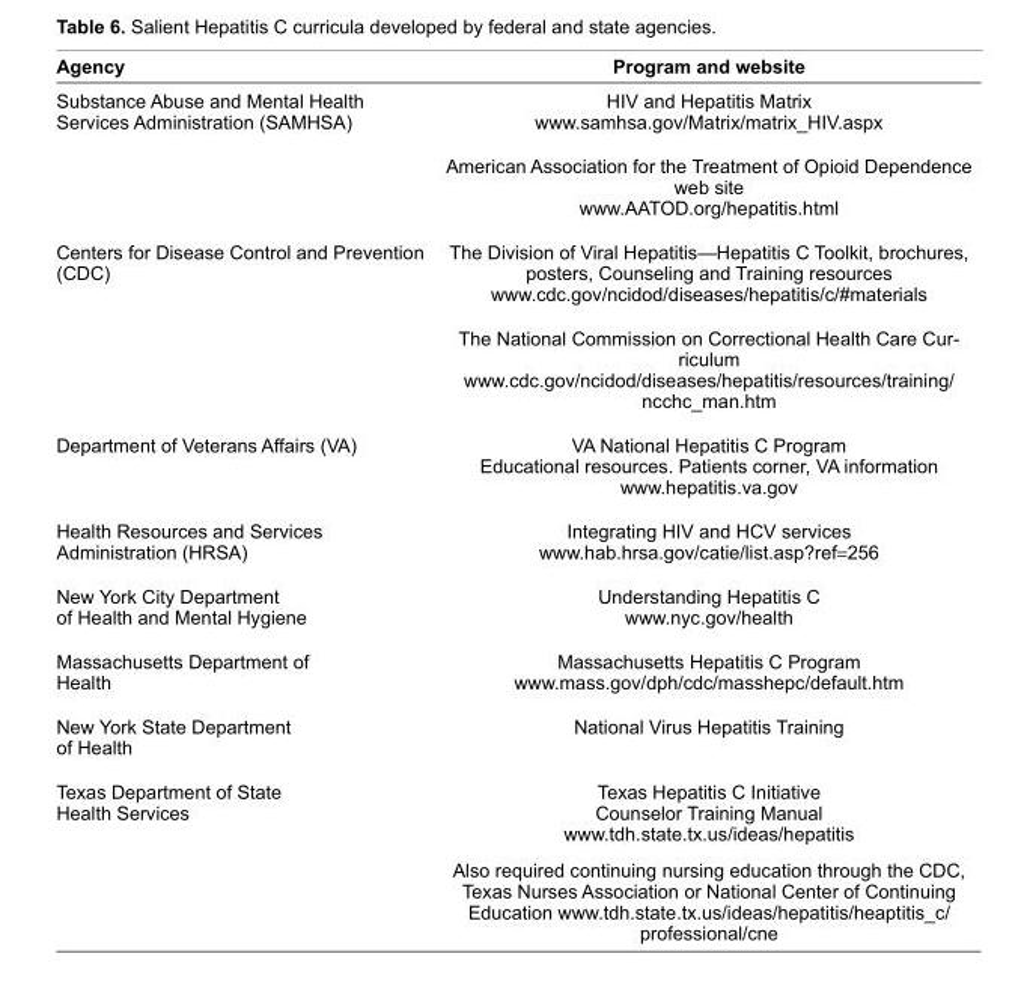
<table><thead><tr><td>Agency</td><td>Program and website</td></tr></thead><tbody><tr><td>Substance Abuse and Mental Health Services Administration (SAMHSA)</td><td>HIV and Hepatitis Matrix www.samhsa.gov/Matrix/matrix_HIV.aspx American Association for the Treatment of Opioid Dependence web site www.AATOD.org/hepatitis.html</td></tr><tr><td>Centers for Disease Control and Prevention (CDC)</td><td>The Division of Viral Hepatitis—Hepatitis C Toolkit, brochures, posters, Counseling and Training resources www.cdc.gov/ncidod/diseases/hepatitis/c/#materials The National Commission on Correctional Health Care Cur- riculum www.cdc.gov/ncidod/diseases/hepatitis/resources/training/ ncchc_man.htm</td></tr><tr><td>Department of Veterans Affairs (VA)</td><td>VA National Hepatitis C Program Educational resources. Patients corner, VA information www.hepatitis.va.gov</td></tr><tr><td>Health Resources and Services Administration (HRSA)</td><td>Integrating HIV and HCV services www.hab.hrsa.gov/catie/list.asp?ref=256</td></tr><tr><td>New York City Department of Health and Mental Hygiene</td><td>Understanding Hepatitis C www.nyc.gov/health</td></tr><tr><td>Massachusetts Department of Health</td><td>Massachusetts Hepatitis C Program www.mass.gov/dph/cdc/masshepc/default.htm</td></tr><tr><td>New York State Department of Health</td><td>National Virus Hepatitis Training</td></tr><tr><td>Texas Department of State Health Services</td><td>Texas Hepatitis C Initiative Counselor Training Manual www.tdh.state.tx.us/ideas/hepatitis Also required continuing nursing education through the CDC, Texas Nurses Association or National Center of Continuing Education www.tdh.state.tx.us/ideas/hepatitis/heaptitis_c/ professional/cne</td></tr></tbody></table>